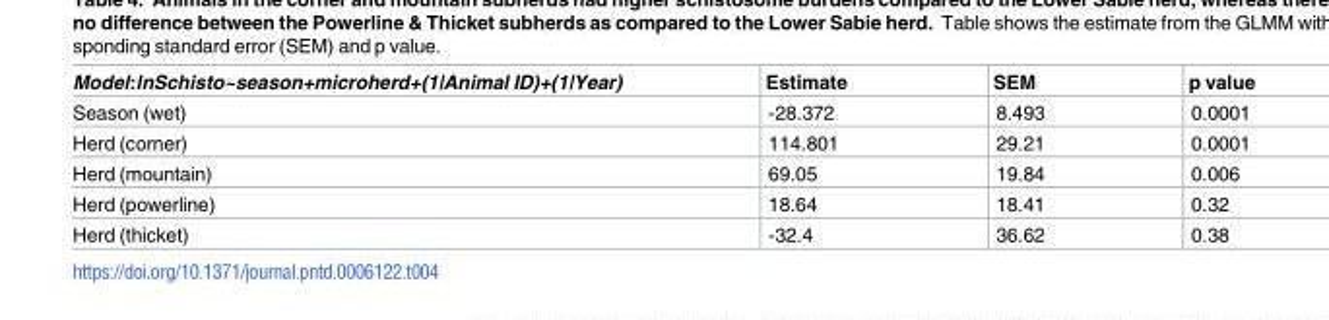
<table><thead><tr><td>Model:lnSchisto~season+microherd+(1|Animal ID)+(1|Year)</td><td>Estimate</td><td>SEM</td><td>p value</td></tr></thead><tbody><tr><td>Season (wet)</td><td>-28.372</td><td>8.493</td><td>0.0001</td></tr><tr><td>Herd (corner)</td><td>114.801</td><td>29.21</td><td>0.0001</td></tr><tr><td>Herd (mountain)</td><td>69.05</td><td>19.84</td><td>0.006</td></tr><tr><td>Herd (powerline)</td><td>18.64</td><td>18.41</td><td>0.32</td></tr><tr><td>Herd (thicket)</td><td>-32.4</td><td>36.62</td><td>0.38</td></tr></tbody></table>